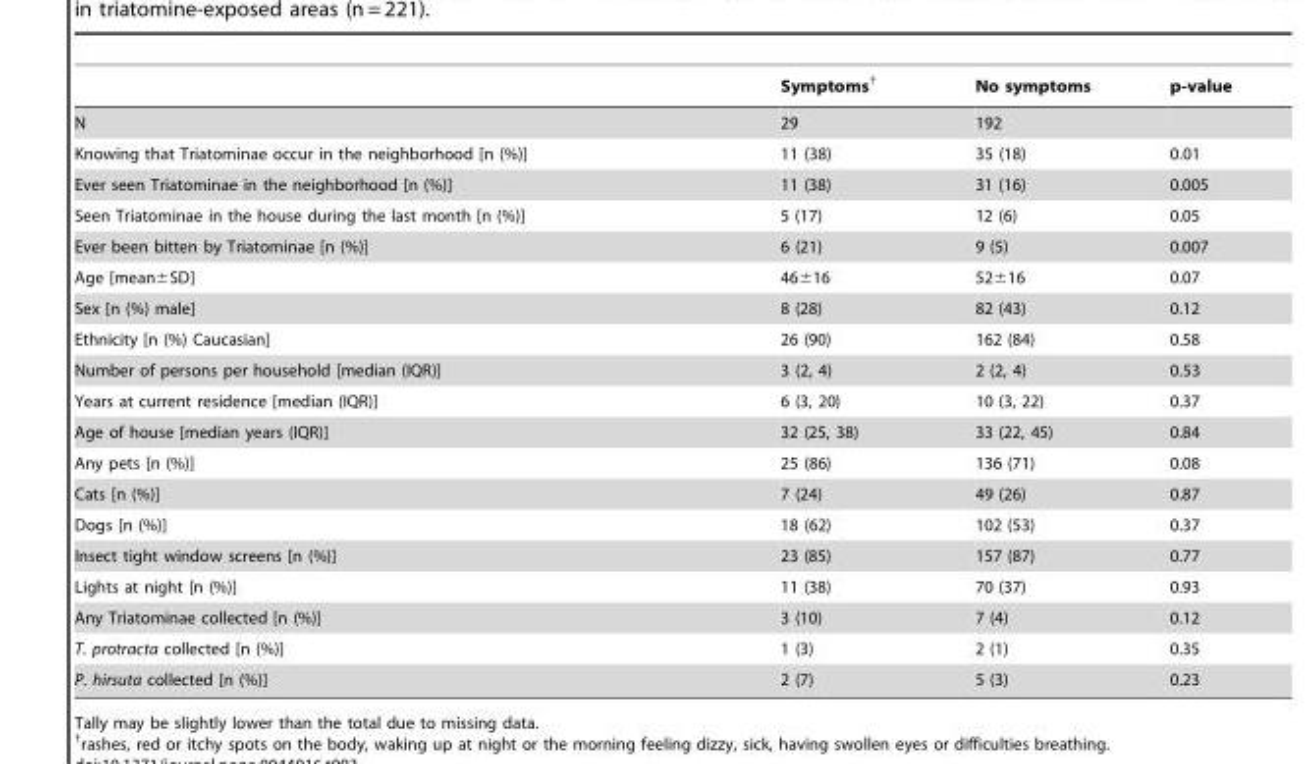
<table><thead><tr><td></td><td>Symptoms†</td><td>No symptoms</td><td>p-value</td></tr></thead><tbody><tr><td>N</td><td>29</td><td>192</td><td></td></tr><tr><td>Knowing that Triatominae occur in the neighborhood [n (%)]</td><td>11 (38)</td><td>35 (18)</td><td>0.01</td></tr><tr><td>Ever seen Triatominae in the neighborhood [n (%)]</td><td>11 (38)</td><td>31 (16)</td><td>0.005</td></tr><tr><td>Seen Triatominae in the house during the last month [n (%)]</td><td>5 (17)</td><td>12 (6)</td><td>0.05</td></tr><tr><td>Ever been bitten by Triatominae [n (%)]</td><td>6 (21)</td><td>9 (5)</td><td>0.007</td></tr><tr><td>Age [mean±SD]</td><td>46±16</td><td>52±16</td><td>0.07</td></tr><tr><td>Sex [n (%) male]</td><td>8 (28)</td><td>82 (43)</td><td>0.12</td></tr><tr><td>Ethnicity [n (%) Caucasian]</td><td>26 (90)</td><td>162 (84)</td><td>0.58</td></tr><tr><td>Number of persons per household [median (IQR)]</td><td>3 (2, 4)</td><td>2 (2, 4)</td><td>0.53</td></tr><tr><td>Years at current residence [median (IQR)]</td><td>6 (3, 20)</td><td>10 (3, 22)</td><td>0.37</td></tr><tr><td>Age of house [median years (IQR)]</td><td>32 (25, 38)</td><td>33 (22, 45)</td><td>0.84</td></tr><tr><td>Any pets [n (%)]</td><td>25 (86)</td><td>136 (71)</td><td>0.08</td></tr><tr><td>Cats [n (%)]</td><td>7 (24)</td><td>49 (26)</td><td>0.87</td></tr><tr><td>Dogs [n (%)]</td><td>18 (62)</td><td>102 (53)</td><td>0.37</td></tr><tr><td>Insect tight window screens [n (%)]</td><td>23 (85)</td><td>157 (87)</td><td>0.77</td></tr><tr><td>Lights at night [n (%)]</td><td>11 (38)</td><td>70 (37)</td><td>0.93</td></tr><tr><td>Any Triatominae collected [n (%)]</td><td>3 (10)</td><td>7 (4)</td><td>0.12</td></tr><tr><td>T. protracta collected [n (%)]</td><td>1 (3)</td><td>2 (1)</td><td>0.35</td></tr><tr><td>P. hirsuta collected [n (%)]</td><td>2 (7)</td><td>5 (3)</td><td>0.23</td></tr></tbody></table>